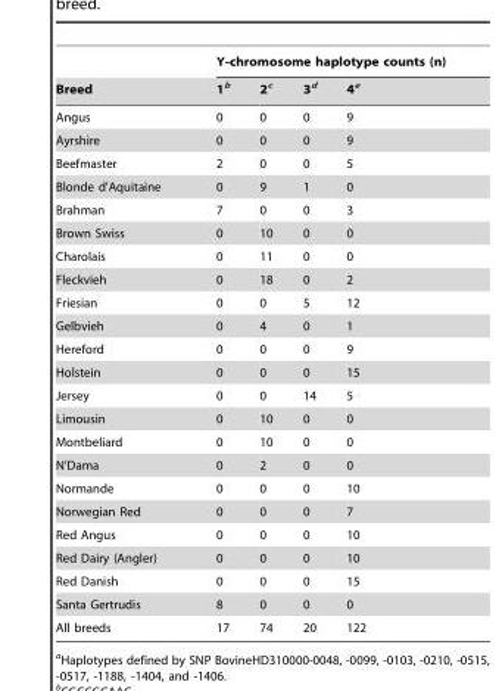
<table><thead><tr><td rowspan="2">Breed</td><td colspan="4">Y-chromosome haplotype counts (n)</td></tr><tr><td>1<sup>b</sup></td><td>2<sup>c</sup></td><td>3<sup>d</sup></td><td>4<sup>e</sup></td></tr></thead><tbody><tr><td>Angus</td><td>0</td><td>0</td><td>0</td><td>9</td></tr><tr><td>Ayrshire</td><td>0</td><td>0</td><td>0</td><td>9</td></tr><tr><td>Beefmaster</td><td>2</td><td>0</td><td>0</td><td>5</td></tr><tr><td>Blonde d’Aquitaine</td><td>0</td><td>9</td><td>1</td><td>0</td></tr><tr><td>Brahman</td><td>7</td><td>0</td><td>0</td><td>3</td></tr><tr><td>Brown Swiss</td><td>0</td><td>10</td><td>0</td><td>0</td></tr><tr><td>Charolais</td><td>0</td><td>11</td><td>0</td><td>0</td></tr><tr><td>Fleckvieh</td><td>0</td><td>18</td><td>0</td><td>2</td></tr><tr><td>Friesian</td><td>0</td><td>0</td><td>5</td><td>12</td></tr><tr><td>Gelbvieh</td><td>0</td><td>4</td><td>0</td><td>1</td></tr><tr><td>Hereford</td><td>0</td><td>0</td><td>0</td><td>9</td></tr><tr><td>Holstein</td><td>0</td><td>0</td><td>0</td><td>15</td></tr><tr><td>Jersey</td><td>0</td><td>0</td><td>14</td><td>5</td></tr><tr><td>Limousin</td><td>0</td><td>10</td><td>0</td><td>0</td></tr><tr><td>Montbeliard</td><td>0</td><td>10</td><td>0</td><td>0</td></tr><tr><td>N’Dama</td><td>0</td><td>2</td><td>0</td><td>0</td></tr><tr><td>Normande</td><td>0</td><td>0</td><td>0</td><td>10</td></tr><tr><td>Norwegian Red</td><td>0</td><td>0</td><td>0</td><td>7</td></tr><tr><td>Red Angus</td><td>0</td><td>0</td><td>0</td><td>10</td></tr><tr><td>Red Dairy (Angler)</td><td>0</td><td>0</td><td>0</td><td>10</td></tr><tr><td>Red Danish</td><td>0</td><td>0</td><td>0</td><td>15</td></tr><tr><td>Santa Gertrudis</td><td>8</td><td>0</td><td>0</td><td>0</td></tr><tr><td>All breeds</td><td>17</td><td>74</td><td>20</td><td>122</td></tr></tbody></table>